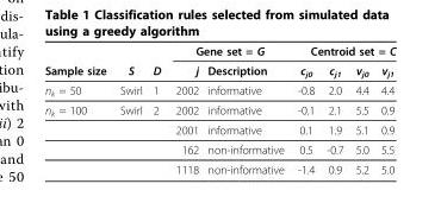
<table><thead><tr><td rowspan="2">Sample size</td><td rowspan="2">S</td><td rowspan="2">D</td><td colspan="2">Gene set = G</td><td colspan="4">Centroid set = C</td></tr><tr><td>j</td><td>Description</td><td>c<sub>j0</sub></td><td>c<sub>j1</sub></td><td>v<sub>j0</sub></td><td>v<sub>j1</sub></td></tr></thead><tbody><tr><td>n<sub>k</sub> = 50</td><td>Swirl</td><td>1</td><td>2002</td><td>informative</td><td>-0.8</td><td>2.0</td><td>4.4</td><td>4.4</td></tr><tr><td rowspan="4">n<sub>k</sub> = 100</td><td>Swirl</td><td>2</td><td>2002</td><td>informative</td><td>-0.1</td><td>2.1</td><td>5.5</td><td>0.9</td></tr><tr><td></td><td></td><td>2001</td><td>informative</td><td>0.1</td><td>1.9</td><td>5.1</td><td>0.9</td></tr><tr><td></td><td></td><td>162</td><td>non-informative</td><td>0.5</td><td>-0.7</td><td>5.0</td><td>5.5</td></tr><tr><td></td><td></td><td>1118</td><td>non-informative</td><td>-1.4</td><td>0.9</td><td>5.2</td><td>5.0</td></tr></tbody></table>